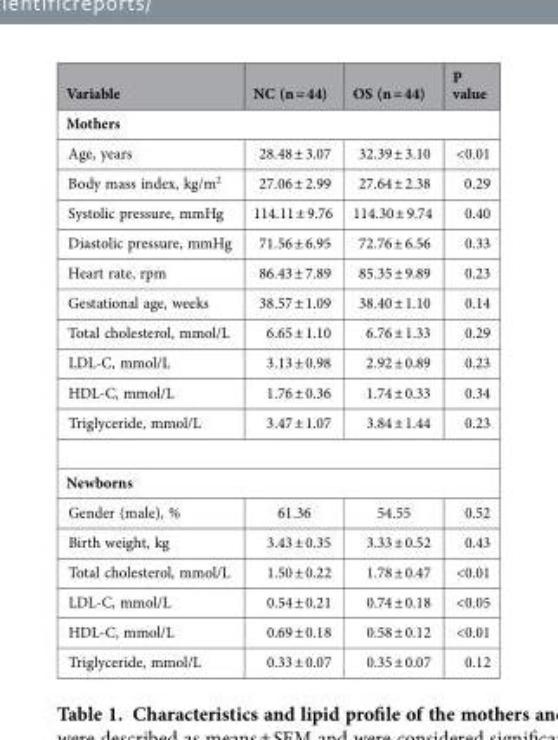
<table><thead><tr><td>Variable</td><td>NC (n = 44)</td><td>OS (n = 44)</td><td>P value</td></tr></thead><tbody><tr><td colspan="4">Mothers</td></tr><tr><td>Age, years</td><td>28.48 ± 3.07</td><td>32.39 ± 3.10</td><td>&lt;0.01</td></tr><tr><td>Body mass index, kg/m<sup>2</sup></td><td>27.06 ± 2.99</td><td>27.64 ± 2.38</td><td>0.29</td></tr><tr><td>Systolic pressure, mmHg</td><td>114.11 ± 9.76</td><td>114.30 ± 9.74</td><td>0.40</td></tr><tr><td>Diastolic pressure, mmHg</td><td>71.56 ± 6.95</td><td>72.76 ± 6.56</td><td>0.33</td></tr><tr><td>Heart rate, rpm</td><td>86.43 ± 7.89</td><td>85.35 ± 9.89</td><td>0.23</td></tr><tr><td>Gestational age, weeks</td><td>38.57 ± 1.09</td><td>38.40 ± 1.10</td><td>0.14</td></tr><tr><td>Total cholesterol, mmol/L</td><td>6.65 ± 1.10</td><td>6.76 ± 1.33</td><td>0.29</td></tr><tr><td>LDL-C, mmol/L</td><td>3.13 ± 0.98</td><td>2.92 ± 0.89</td><td>0.23</td></tr><tr><td>HDL-C, mmol/L</td><td>1.76 ± 0.36</td><td>1.74 ± 0.33</td><td>0.34</td></tr><tr><td>Triglyceride, mmol/L</td><td>3.47 ± 1.07</td><td>3.84 ± 1.44</td><td>0.23</td></tr><tr><td colspan="4">Newborns</td></tr><tr><td>Gender (male), %</td><td>61.36</td><td>54.55</td><td>0.52</td></tr><tr><td>Birth weight, kg</td><td>3.43 ± 0.35</td><td>3.33 ± 0.52</td><td>0.43</td></tr><tr><td>Total cholesterol, mmol/L</td><td>1.50 ± 0.22</td><td>1.78 ± 0.47</td><td>&lt;0.01</td></tr><tr><td>LDL-C, mmol/L</td><td>0.54 ± 0.21</td><td>0.74 ± 0.18</td><td>&lt;0.05</td></tr><tr><td>HDL-C, mmol/L</td><td>0.69 ± 0.18</td><td>0.58 ± 0.12</td><td>&lt;0.01</td></tr><tr><td>Triglyceride, mmol/L</td><td>0.33 ± 0.07</td><td>0.35 ± 0.07</td><td>0.12</td></tr></tbody></table>